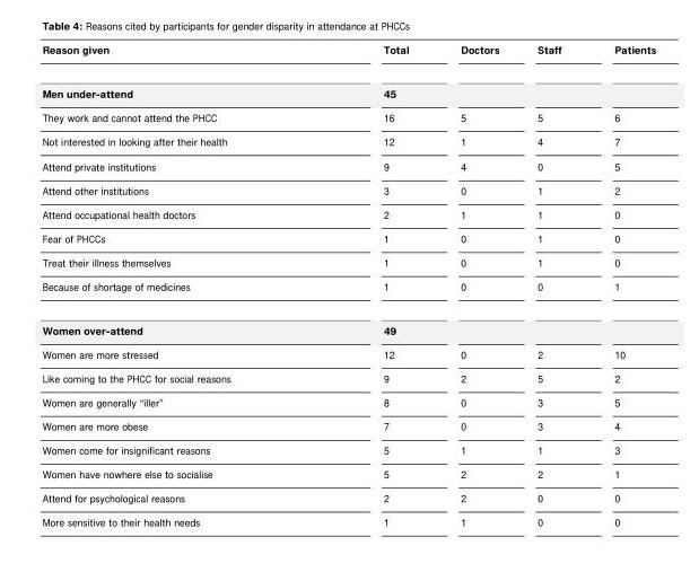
<table><thead><tr><td>Reason given</td><td>Total</td><td>Doctors</td><td>Staff</td><td>Patients</td></tr></thead><tbody><tr><td>Men under-attend</td><td>45</td><td></td><td></td><td></td></tr><tr><td>They work and cannot attend the PHCC</td><td>16</td><td>5</td><td>5</td><td>6</td></tr><tr><td>Not interested in looking after their health</td><td>12</td><td>1</td><td>4</td><td>7</td></tr><tr><td>Attend private institutions</td><td>9</td><td>4</td><td>0</td><td>5</td></tr><tr><td>Attend other institutions</td><td>3</td><td>0</td><td>1</td><td>2</td></tr><tr><td>Attend occupational health doctors</td><td>2</td><td>1</td><td>1</td><td>0</td></tr><tr><td>Fear of PHCCs</td><td>1</td><td>0</td><td>1</td><td>0</td></tr><tr><td>Treat their illness themselves</td><td>1</td><td>0</td><td>1</td><td>0</td></tr><tr><td>Because of shortage of medicines</td><td>1</td><td>0</td><td>0</td><td>1</td></tr><tr><td>Women over-attend</td><td>49</td><td></td><td></td><td></td></tr><tr><td>Women are more stressed</td><td>12</td><td>0</td><td>2</td><td>10</td></tr><tr><td>Like coming to the PHCC for social reasons</td><td>9</td><td>2</td><td>5</td><td>2</td></tr><tr><td>Women are generally “iller”</td><td>8</td><td>0</td><td>3</td><td>5</td></tr><tr><td>Women are more obese</td><td>7</td><td>0</td><td>3</td><td>4</td></tr><tr><td>Women come for insignificant reasons</td><td>5</td><td>1</td><td>1</td><td>3</td></tr><tr><td>Women have nowhere else to socialise</td><td>5</td><td>2</td><td>2</td><td>1</td></tr><tr><td>Attend for psychological reasons</td><td>2</td><td>2</td><td>0</td><td>0</td></tr><tr><td>More sensitive to their health needs</td><td>1</td><td>1</td><td>0</td><td>0</td></tr></tbody></table>